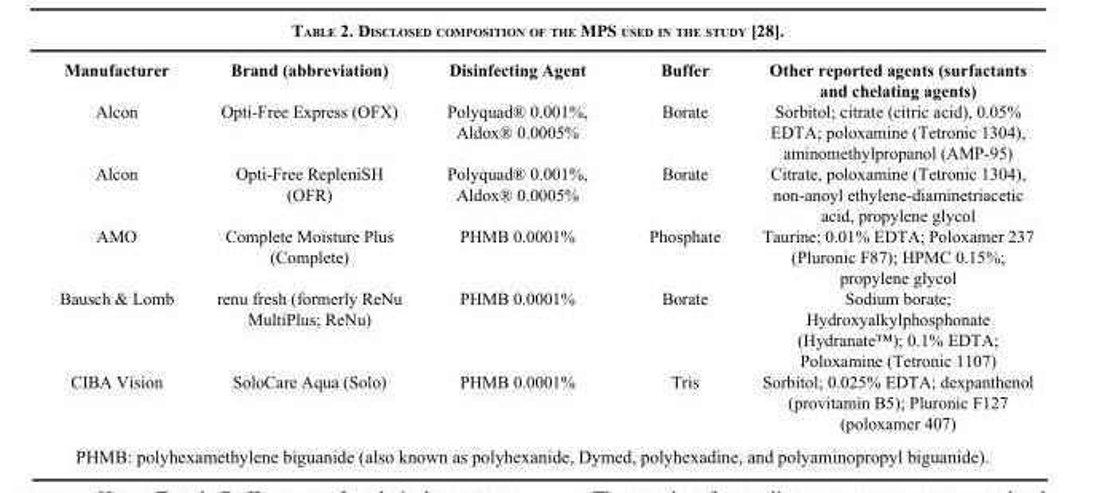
<table><thead><tr><td>Manufacturer</td><td>Brand (abbreviation)</td><td>Disinfecting Agent</td><td>Buffer</td><td>Other reported agents (surfactants and chelating agents)</td></tr></thead><tbody><tr><td>Alcon</td><td>Opti-Free Express (OFX)</td><td>Polyquad® 0.001%, Aldox® 0.0005%</td><td>Borate</td><td>Sorbitol; citrate (citric acid), 0.05% EDTA; poloxamine (Tetronic 1304), aminomethylpropanol (AMP-95)</td></tr><tr><td>Alcon</td><td>Opti-Free RepleniSH (OFR)</td><td>Polyquad® 0.001%, Aldox® 0.0005%</td><td>Borate</td><td>Citrate, poloxamine (Tetronic 1304), non-anoyl ethylene-diaminetriacetic acid, propylene glycol</td></tr><tr><td>AMO</td><td>Complete Moisture Plus (Complete)</td><td>PHMB 0.0001%</td><td>Phosphate</td><td>Taurine; 0.01% EDTA; Poloxamer 237 (Pluronic F87); HPMC 0.15%; propylene glycol</td></tr><tr><td>Bausch &amp; Lomb</td><td>renu fresh (formerly ReNu MultiPlus; ReNu)</td><td>PHMB 0.0001%</td><td>Borate</td><td>Sodium borate; Hydroxyalkylphosphonate (Hydranate™); 0.1% EDTA; Poloxamine (Tetronic 1107)</td></tr><tr><td>CIBA Vision</td><td>SoloCare Aqua (Solo)</td><td>PHMB 0.0001%</td><td>Tris</td><td>Sorbitol; 0.025% EDTA; dexpanthenol (provitamin B5); Pluronic F127 (poloxamer 407)</td></tr></tbody></table>